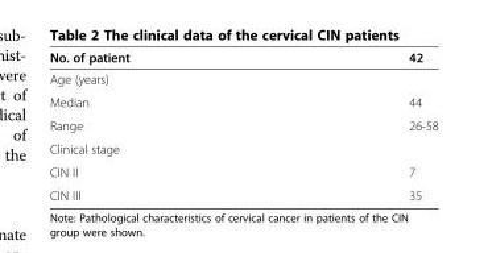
<table><thead><tr><td>No. of patient</td><td>42</td></tr></thead><tbody><tr><td colspan="2">Age (years)</td></tr><tr><td>Median</td><td>44</td></tr><tr><td>Range</td><td>26-58</td></tr><tr><td colspan="2">Clinical stage</td></tr><tr><td>CIN II</td><td>7</td></tr><tr><td>CIN III</td><td>35</td></tr></tbody></table>